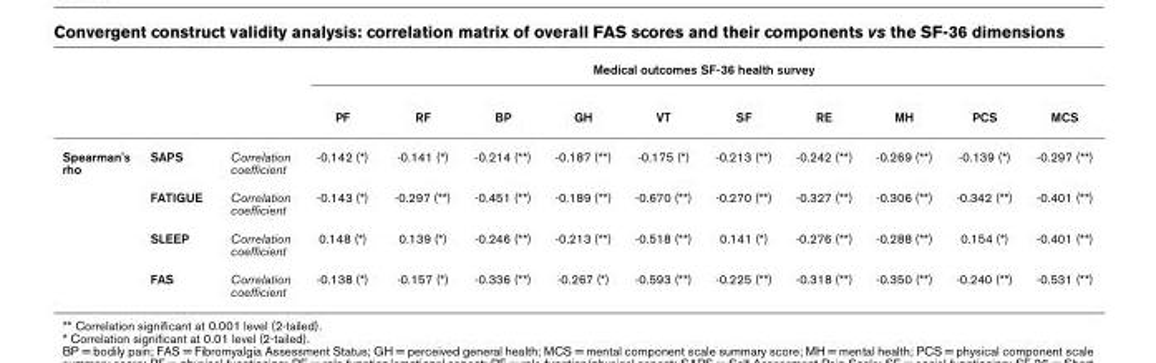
<table><thead><tr><td rowspan="2"></td><td rowspan="2"></td><td rowspan="2"></td><td colspan="10">Medical outcomes SF-36 health survey</td></tr><tr><td>PF</td><td>RF</td><td>BP</td><td>GH</td><td>VT</td><td>SF</td><td>RE</td><td>MH</td><td>PCS</td><td>MCS</td></tr></thead><tbody><tr><td rowspan="4">Spearman&#x27;s rho</td><td>SAPS</td><td>Correlation coefficient</td><td>-0.142 (*)</td><td>-0.141 (*)</td><td>-0.214 (**)</td><td>-0.187 (**)</td><td>-0.175 (*)</td><td>-0.213 (**)</td><td>-0.242 (**)</td><td>-0.269 (**)</td><td>-0.139 (*)</td><td>-0.297 (**)</td></tr><tr><td>FATIGUE</td><td>Correlation coefficient</td><td>-0.143 (*)</td><td>-0.297 (**)</td><td>-0.451 (**)</td><td>-0.189 (**)</td><td>-0.670 (**)</td><td>-0.270 (**)</td><td>-0.327 (**)</td><td>-0.306 (**)</td><td>-0.342 (**)</td><td>-0.401 (**)</td></tr><tr><td>SLEEP</td><td>Correlation coefficient</td><td>0.148 (*)</td><td>0.139 (*)</td><td>-0.246 (**)</td><td>-0.213 (**)</td><td>-0.518 (**)</td><td>0.141 (*)</td><td>-0.276 (**)</td><td>-0.288 (**)</td><td>0.154 (*)</td><td>-0.401 (**)</td></tr><tr><td>FAS</td><td>Correlation coefficient</td><td>-0.138 (*)</td><td>-0.157 (*)</td><td>-0.336 (**)</td><td>-0.267 (*)</td><td>-0.593 (**)</td><td>-0.225 (**)</td><td>-0.318 (**)</td><td>-0.350 (**)</td><td>-0.240 (**)</td><td>-0.531 (**)</td></tr></tbody></table>